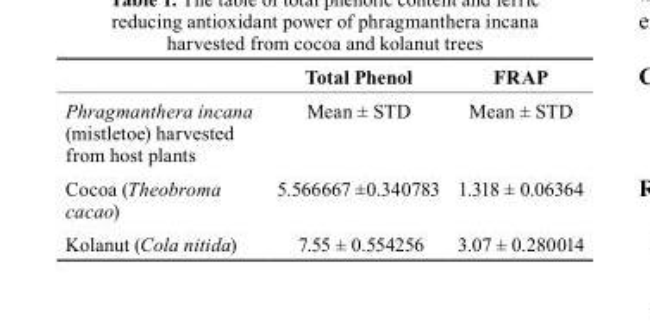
<table><thead><tr><td></td><td>Total Phenol</td><td>FRAP</td></tr></thead><tbody><tr><td>Phragmanthera incana (mistletoe) harvested from host plants</td><td>Mean ± STD</td><td>Mean ± STD</td></tr><tr><td>Cocoa (Theobroma cacao)</td><td>5.566667 ±0.340783</td><td>1.318 ± 0.06364</td></tr><tr><td>Kolanut (Cola nitida)</td><td>7.55 ± 0.554256</td><td>3.07 ± 0.280014</td></tr></tbody></table>